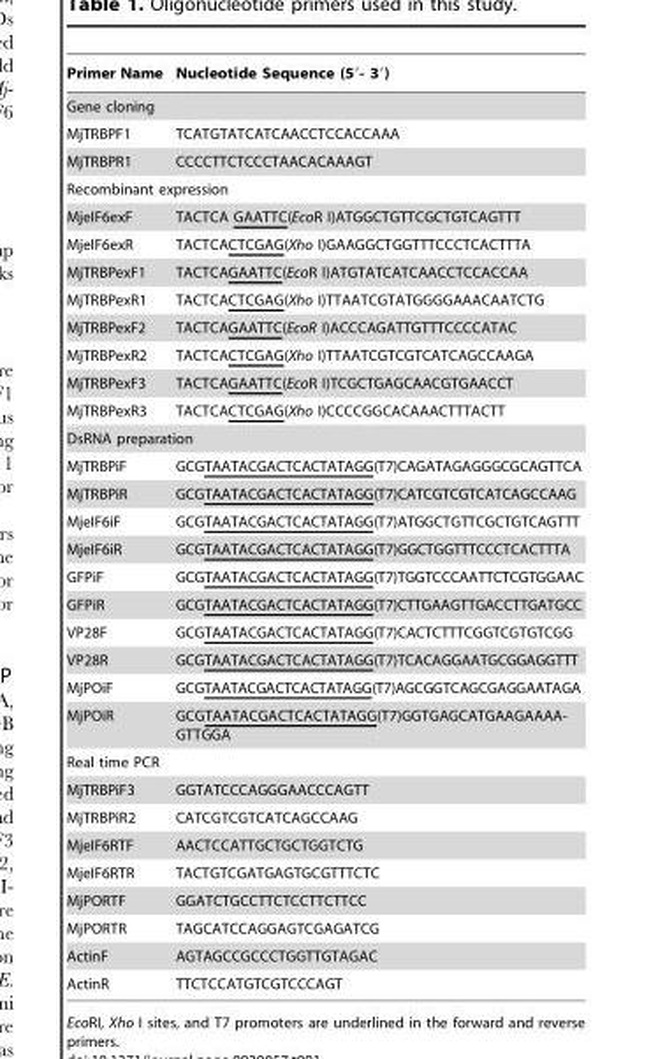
<table><thead><tr><td>Primer Name</td><td>Nucleotide Sequence (5′- 3′)</td></tr></thead><tbody><tr><td colspan="2">Gene cloning</td></tr><tr><td>MjTRBPF1</td><td>TCATGTATCATCAACCTCCACCAAA</td></tr><tr><td>MjTRBPR1</td><td>CCCCTTCTCCCTAACACAAAGT</td></tr><tr><td colspan="2">Recombinant expression</td></tr><tr><td>MjeIF6exF</td><td>TACTCA GAATTC(EcoR I)ATGGCTGTTCGCTGTCAGTTT</td></tr><tr><td>MjeIF6exR</td><td>TACTCACTCGAG(Xho I)GAAGGCTGGTTTCCCTCACTTTA</td></tr><tr><td>MjTRBPexF1</td><td>TACTCAGAATTC(EcoR I)ATGTATCATCAACCTCCACCAA</td></tr><tr><td>MjTRBPexR1</td><td>TACTCACTCGAG(Xho I)TTAATCGTATGGGGAAACAATCTG</td></tr><tr><td>MjTRBPexF2</td><td>TACTCAGAATTC(EcoR I)ACCCAGATTGTTTCCCCATAC</td></tr><tr><td>MjTRBPexR2</td><td>TACTCACTCGAG(Xho I)TTAATCGTCGTCATCAGCCAAGA</td></tr><tr><td>MjTRBPexF3</td><td>TACTCAGAATTC(EcoR I)TCGCTGAGCAACGTGAACCT</td></tr><tr><td>MjTRBPexR3</td><td>TACTCACTCGAG(Xho I)CCCCGGCACAAACTTTACTT</td></tr><tr><td colspan="2">DsRNA preparation</td></tr><tr><td>MjTRBPiF</td><td>GCGTAATACGACTCACTATAGG(T7)CAGATAGAGGGCGCAGTTCA</td></tr><tr><td>MjTRBPiR</td><td>GCGTAATACGACTCACTATAGG(T7)CATCGTCGTCATCAGCCAAG</td></tr><tr><td>MjeIF6iF</td><td>GCGTAATACGACTCACTATAGG(T7)ATGGCTGTTCGCTGTCAGTTT</td></tr><tr><td>MjeIF6iR</td><td>GCGTAATACGACTCACTATAGG(T7)GGCTGGTTTCCCTCACTTTA</td></tr><tr><td>GFPiF</td><td>GCGTAATACGACTCACTATAGG(T7)TGGTCCCAATTCTCGTGGAAC</td></tr><tr><td>GFPiR</td><td>GCGTAATACGACTCACTATAGG(T7)CTTGAAGTTGACCTTGATGCC</td></tr><tr><td>VP28F</td><td>GCGTAATACGACTCACTATAGG(T7)CACTCTTTCGGTCGTGTCGG</td></tr><tr><td>VP28R</td><td>GCGTAATACGACTCACTATAGG(T7)TCACAGGAATGCGGAGGTTT</td></tr><tr><td>MjPOiF</td><td>GCGTAATACGACTCACTATAGG(T7)AGCGGTCAGCGAGGAATAGA</td></tr><tr><td>MjPOiR</td><td>GCGTAATACGACTCACTATAGG(T7)GGTGAGCATGAAGAAAA- GTTGGA</td></tr><tr><td colspan="2">Real time PCR</td></tr><tr><td>MjTRBPiF3</td><td>GGTATCCCAGGGAACCCAGTT</td></tr><tr><td>MjTRBPiR2</td><td>CATCGTCGTCATCAGCCAAG</td></tr><tr><td>MjeIF6RTF</td><td>AACTCCATTGCTGCTGGTCTG</td></tr><tr><td>MjeIF6RTR</td><td>TACTGTCGATGAGTGCGTTTCTC</td></tr><tr><td>MjPORTF</td><td>GGATCTGCCTTCTCCTTCTTCC</td></tr><tr><td>MjPORTR</td><td>TAGCATCCAGGAGTCGAGATCG</td></tr><tr><td>ActinF</td><td>AGTAGCCGCCCTGGTTGTAGAC</td></tr><tr><td>ActinR</td><td>TTCTCCATGTCGTCCCAGT</td></tr></tbody></table>